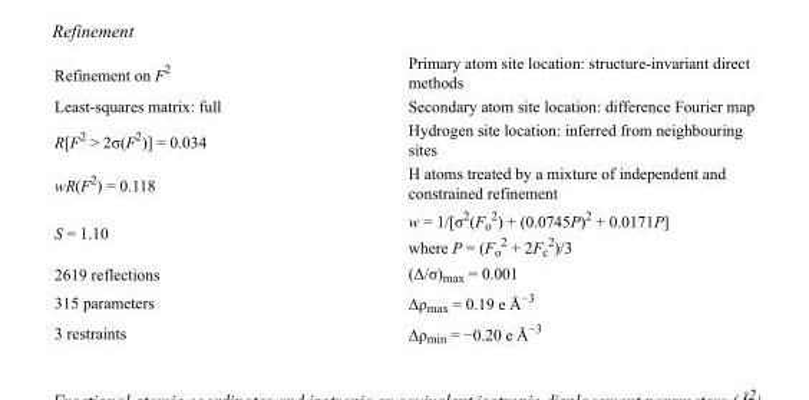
<table><tbody><tr><td>Refinement on F<sup>2</sup></td><td>Primary atom site location: structure-invariant direct methods</td></tr><tr><td>Least-squares matrix: full</td><td>Secondary atom site location: difference Fourier map</td></tr><tr><td>R[F<sup>2</sup> &gt; 2σ(F<sup>2</sup>)] = 0.034</td><td>Hydrogen site location: inferred from neighbouring sites</td></tr><tr><td>wR(F<sup>2</sup>) = 0.118</td><td>H atoms treated by a mixture of independent and constrained refinement</td></tr><tr><td>S = 1.10</td><td>w = 1/[σ<sup>2</sup>(F<sub>o</sub> <sup>2</sup>) + (0.0745P)<sup>2</sup> + 0.0171P] where P = (F<sub>o</sub> <sup>2</sup> + 2F<sub>c</sub> <sup>2</sup>)/3</td></tr><tr><td>2619 reflections</td><td>(Δ/σ)<sub>max</sub> = 0.001</td></tr><tr><td>315 parameters</td><td>Δρ<sub>max</sub> = 0.19 e Å<sup>−3</sup></td></tr><tr><td>3 restraints</td><td>Δρ<sub>min</sub> = −0.20 e Å<sup>−3</sup></td></tr></tbody></table>